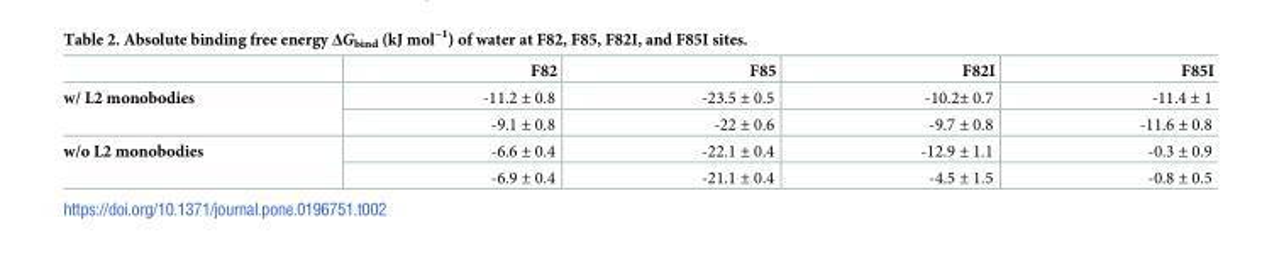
<table><thead><tr><td></td><td>F82</td><td>F85</td><td>F82I</td><td>F85I</td></tr></thead><tbody><tr><td rowspan="2">w/ L2 monobodies</td><td>-11.2 ± 0.8</td><td>-23.5 ± 0.5</td><td>-10.2± 0.7</td><td>-11.4 ± 1</td></tr><tr><td>-9.1 ± 0.8</td><td>-22 ± 0.6</td><td>-9.7 ± 0.8</td><td>-11.6 ± 0.8</td></tr><tr><td rowspan="2">w/o L2 monobodies</td><td>-6.6 ± 0.4</td><td>-22.1 ± 0.4</td><td>-12.9 ± 1.1</td><td>-0.3 ± 0.9</td></tr><tr><td>-6.9 ± 0.4</td><td>-21.1 ± 0.4</td><td>-4.5 ± 1.5</td><td>-0.8 ± 0.5</td></tr></tbody></table>